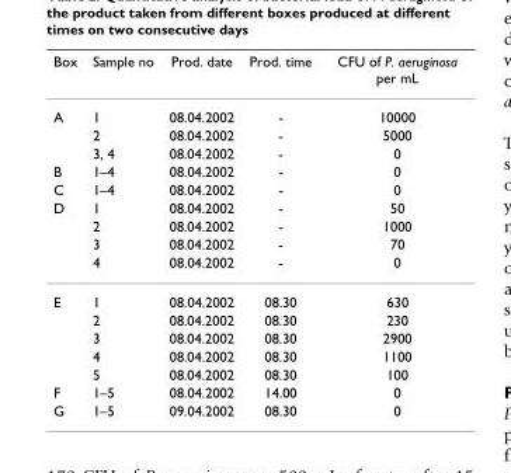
<table><thead><tr><td>Box</td><td>Sample no</td><td>Prod. date</td><td>Prod. time</td><td>CFU of P. aeruginosa per mL</td></tr></thead><tbody><tr><td rowspan="3">A</td><td>1</td><td>08.04.2002</td><td>-</td><td>10000</td></tr><tr><td>2</td><td>08.04.2002</td><td>-</td><td>5000</td></tr><tr><td>3, 4</td><td>08.04.2002</td><td>-</td><td>0</td></tr><tr><td>B</td><td>1–4</td><td>08.04.2002</td><td>-</td><td>0</td></tr><tr><td>C</td><td>1–4</td><td>08.04.2002</td><td>-</td><td>0</td></tr><tr><td rowspan="4">D</td><td>1</td><td>08.04.2002</td><td>-</td><td>50</td></tr><tr><td>2</td><td>08.04.2002</td><td>-</td><td>1000</td></tr><tr><td>3</td><td>08.04.2002</td><td>-</td><td>70</td></tr><tr><td>4</td><td>08.04.2002</td><td>-</td><td>0</td></tr><tr><td rowspan="5">E</td><td>1</td><td>08.04.2002</td><td>08.30</td><td>630</td></tr><tr><td>2</td><td>08.04.2002</td><td>08.30</td><td>230</td></tr><tr><td>3</td><td>08.04.2002</td><td>08.30</td><td>2900</td></tr><tr><td>4</td><td>08.04.2002</td><td>08.30</td><td>1100</td></tr><tr><td>5</td><td>08.04.2002</td><td>08.30</td><td>100</td></tr><tr><td>F</td><td>1–5</td><td>08.04.2002</td><td>14.00</td><td>0</td></tr><tr><td>G</td><td>1–5</td><td>09.04.2002</td><td>08.30</td><td>0</td></tr></tbody></table>